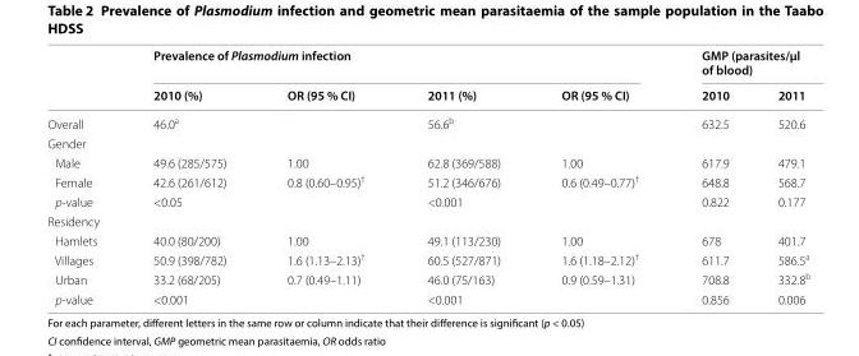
<table><thead><tr><td rowspan="2"></td><td colspan="4">Prevalence of Plasmodium infection</td><td colspan="2">GMP (parasites/µl of blood)</td></tr><tr><td>2010 (%)</td><td>OR (95 % CI)</td><td>2011 (%)</td><td>OR (95 % CI)</td><td>2010</td><td>2011</td></tr></thead><tbody><tr><td>Overall</td><td>46.0<sup>a</sup></td><td></td><td>56.6<sup>b</sup></td><td></td><td>632.5</td><td>520.6</td></tr><tr><td colspan="7">Gender</td></tr><tr><td>Male</td><td>49.6 (285/575)</td><td>1.00</td><td>62.8 (369/588)</td><td>1.00</td><td>617.9</td><td>479.1</td></tr><tr><td>Female</td><td>42.6 (261/612)</td><td>0.8 (0.60–0.95)<sup>†</sup></td><td>51.2 (346/676)</td><td>0.6 (0.49–0.77)<sup>†</sup></td><td>648.8</td><td>568.7</td></tr><tr><td>p-value</td><td>&lt;0.05</td><td></td><td>&lt;0.001</td><td></td><td>0.822</td><td>0.177</td></tr><tr><td colspan="7">Residency</td></tr><tr><td>Hamlets</td><td>40.0 (80/200)</td><td>1.00</td><td>49.1 (113/230)</td><td>1.00</td><td>678</td><td>401.7</td></tr><tr><td>Villages</td><td>50.9 (398/782)</td><td>1.6 (1.13–2.13)<sup>†</sup></td><td>60.5 (527/871)</td><td>1.6 (1.18–2.12)<sup>†</sup></td><td>611.7</td><td>586.5<sup>a</sup></td></tr><tr><td>Urban</td><td>33.2 (68/205)</td><td>0.7 (0.49–1.11)</td><td>46.0 (75/163)</td><td>0.9 (0.59–1.31)</td><td>708.8</td><td>332.8<sup>b</sup></td></tr><tr><td>p-value</td><td>&lt;0.001</td><td></td><td>&lt;0.001</td><td></td><td>0.856</td><td>0.006</td></tr></tbody></table>